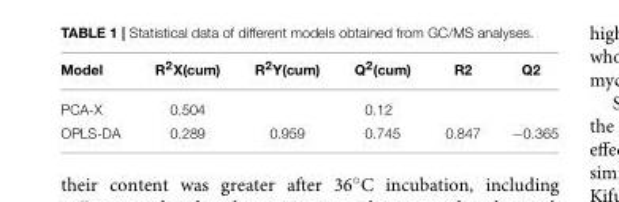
<table><thead><tr><td>Model</td><td>R<sup>2</sup>X(cum)</td><td>R<sup>2</sup>Y(cum)</td><td>Q<sup>2</sup>(cum)</td><td>R2</td><td>Q2</td></tr></thead><tbody><tr><td>PCA-X</td><td>0.504</td><td></td><td>0.12</td><td></td><td></td></tr><tr><td>OPLS-DA</td><td>0.289</td><td>0.959</td><td>0.745</td><td>0.847</td><td>−0.365</td></tr></tbody></table>